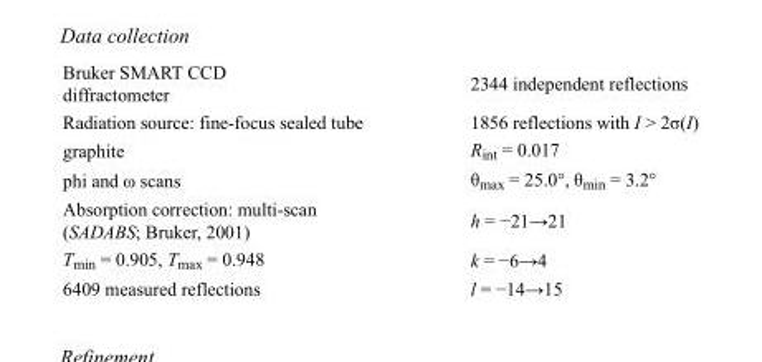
<table><tbody><tr><td>Bruker SMART CCD diffractometer</td><td>2344 independent reflections</td></tr><tr><td>Radiation source: fine-focus sealed tube</td><td>1856 reflections with I &gt; 2σ(I)</td></tr><tr><td>graphite</td><td>R<sub>int</sub> = 0.017</td></tr><tr><td>phi and ω scans</td><td>θ<sub>max</sub> = 25.0°, θ<sub>min</sub> = 3.2°</td></tr><tr><td>Absorption correction: multi-scan (SADABS; Bruker, 2001)</td><td>h = −21→21</td></tr><tr><td>T<sub>min</sub> = 0.905, T<sub>max</sub> = 0.948</td><td>k = −6→4</td></tr><tr><td>6409 measured reflections</td><td>l = −14→15</td></tr></tbody></table>